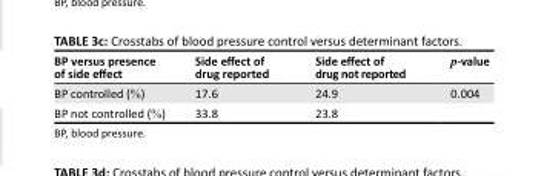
<table><thead><tr><td>BP versus presence of side effect</td><td>Side effect of drug reported</td><td>Side effect of drug not reported</td><td>p-value</td></tr></thead><tbody><tr><td>BP controlled (%)</td><td>17.6</td><td>24.9</td><td>0.004</td></tr><tr><td>BP not controlled (%)</td><td>33.8</td><td>23.8</td><td></td></tr></tbody></table>